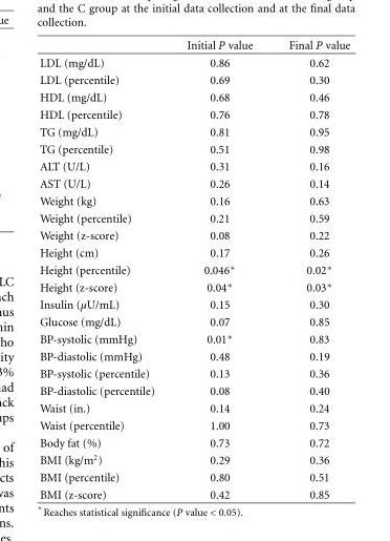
<table><thead><tr><td></td><td>Initial P value</td><td>Final P value</td></tr></thead><tbody><tr><td>LDL (mg/dL)</td><td>0.86</td><td>0.62</td></tr><tr><td>LDL (percentile)</td><td>0.69</td><td>0.30</td></tr><tr><td>HDL (mg/dL)</td><td>0.68</td><td>0.46</td></tr><tr><td>HDL (percentile)</td><td>0.76</td><td>0.78</td></tr><tr><td>TG (mg/dL)</td><td>0.81</td><td>0.95</td></tr><tr><td>TG (percentile)</td><td>0.51</td><td>0.98</td></tr><tr><td>ALT (U/L)</td><td>0.31</td><td>0.16</td></tr><tr><td>AST (U/L)</td><td>0.26</td><td>0.14</td></tr><tr><td>Weight (kg)</td><td>0.16</td><td>0.63</td></tr><tr><td>Weight (percentile)</td><td>0.21</td><td>0.59</td></tr><tr><td>Weight (z-score)</td><td>0.08</td><td>0.22</td></tr><tr><td>Height (cm)</td><td>0.17</td><td>0.26</td></tr><tr><td>Height (percentile)</td><td>0.046∗</td><td>0.02∗</td></tr><tr><td>Height (z-score)</td><td>0.04∗</td><td>0.03∗</td></tr><tr><td>Insulin (µU/mL)</td><td>0.15</td><td>0.30</td></tr><tr><td>Glucose (mg/dL)</td><td>0.07</td><td>0.85</td></tr><tr><td>BP-systolic (mmHg)</td><td>0.01∗</td><td>0.83</td></tr><tr><td>BP-diastolic (mmHg)</td><td>0.48</td><td>0.19</td></tr><tr><td>BP-systolic (percentile)</td><td>0.13</td><td>0.36</td></tr><tr><td>BP-diastolic (percentile)</td><td>0.08</td><td>0.40</td></tr><tr><td>Waist (in.)</td><td>0.14</td><td>0.24</td></tr><tr><td>Waist (percentile)</td><td>1.00</td><td>0.73</td></tr><tr><td>Body fat (%)</td><td>0.73</td><td>0.72</td></tr><tr><td>BMI (kg/m<sup>2</sup>)</td><td>0.29</td><td>0.36</td></tr><tr><td>BMI (percentile)</td><td>0.80</td><td>0.51</td></tr><tr><td>BMI (z-score)</td><td>0.42</td><td>0.85</td></tr></tbody></table>